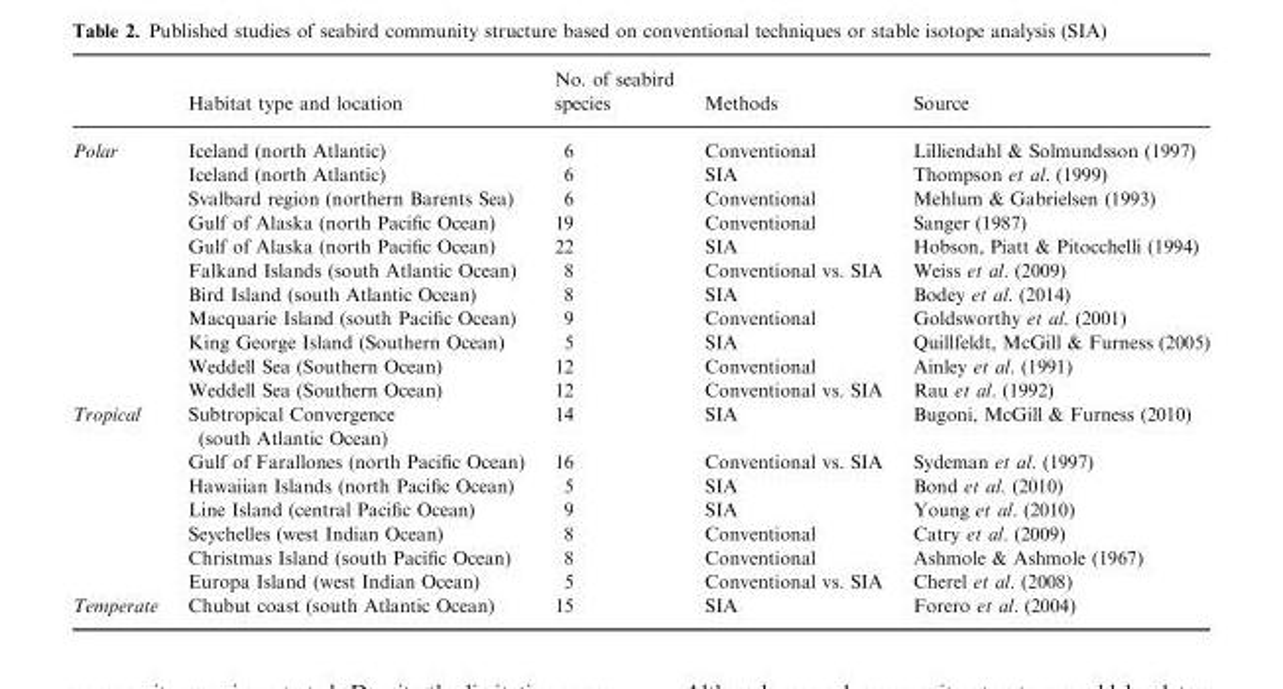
<table><thead><tr><td></td><td>Habitat type and location</td><td>No. of seabird species</td><td>Methods</td><td>Source</td></tr></thead><tbody><tr><td rowspan="11">Polar</td><td>Iceland (north Atlantic)</td><td>6</td><td>Conventional</td><td>Lilliendahl &amp; Solmundsson (1997)</td></tr><tr><td>Iceland (north Atlantic)</td><td>6</td><td>SIA</td><td>Thompson et al. (1999)</td></tr><tr><td>Svalbard region (northern Barents Sea)</td><td>6</td><td>Conventional</td><td>Mehlum &amp; Gabrielsen (1993)</td></tr><tr><td>Gulf of Alaska (north Pacific Ocean)</td><td>19</td><td>Conventional</td><td>Sanger (1987)</td></tr><tr><td>Gulf of Alaska (north Pacific Ocean)</td><td>22</td><td>SIA</td><td>Hobson, Piatt &amp; Pitocchelli (1994)</td></tr><tr><td>Falkand Islands (south Atlantic Ocean)</td><td>8</td><td>Conventional vs. SIA</td><td>Weiss et al. (2009)</td></tr><tr><td>Bird Island (south Atlantic Ocean)</td><td>8</td><td>SIA</td><td>Bodey et al. (2014)</td></tr><tr><td>Macquarie Island (south Pacific Ocean)</td><td>9</td><td>Conventional</td><td>Goldsworthy et al. (2001)</td></tr><tr><td>King George Island (Southern Ocean)</td><td>5</td><td>SIA</td><td>Quillfeldt, McGill &amp; Furness (2005)</td></tr><tr><td>Weddell Sea (Southern Ocean)</td><td>12</td><td>Conventional</td><td>Ainley et al. (1991)</td></tr><tr><td>Weddell Sea (Southern Ocean)</td><td>12</td><td>Conventional vs. SIA</td><td>Rau et al. (1992)</td></tr><tr><td rowspan="7">Tropical</td><td>Subtropical Convergence (south Atlantic Ocean)</td><td>14</td><td>SIA</td><td>Bugoni, McGill &amp; Furness (2010)</td></tr><tr><td>Gulf of Farallones (north Pacific Ocean)</td><td>16</td><td>Conventional vs. SIA</td><td>Sydeman et al. (1997)</td></tr><tr><td>Hawaiian Islands (north Pacific Ocean)</td><td>5</td><td>SIA</td><td>Bond et al. (2010)</td></tr><tr><td>Line Island (central Pacific Ocean)</td><td>9</td><td>SIA</td><td>Young et al. (2010)</td></tr><tr><td>Seychelles (west Indian Ocean)</td><td>8</td><td>Conventional</td><td>Catry et al. (2009)</td></tr><tr><td>Christmas Island (south Pacific Ocean)</td><td>8</td><td>Conventional</td><td>Ashmole &amp; Ashmole (1967)</td></tr><tr><td>Europa Island (west Indian Ocean)</td><td>5</td><td>Conventional vs. SIA</td><td>Cherel et al. (2008)</td></tr><tr><td>Temperate</td><td>Chubut coast (south Atlantic Ocean)</td><td>15</td><td>SIA</td><td>Forero et al. (2004)</td></tr></tbody></table>